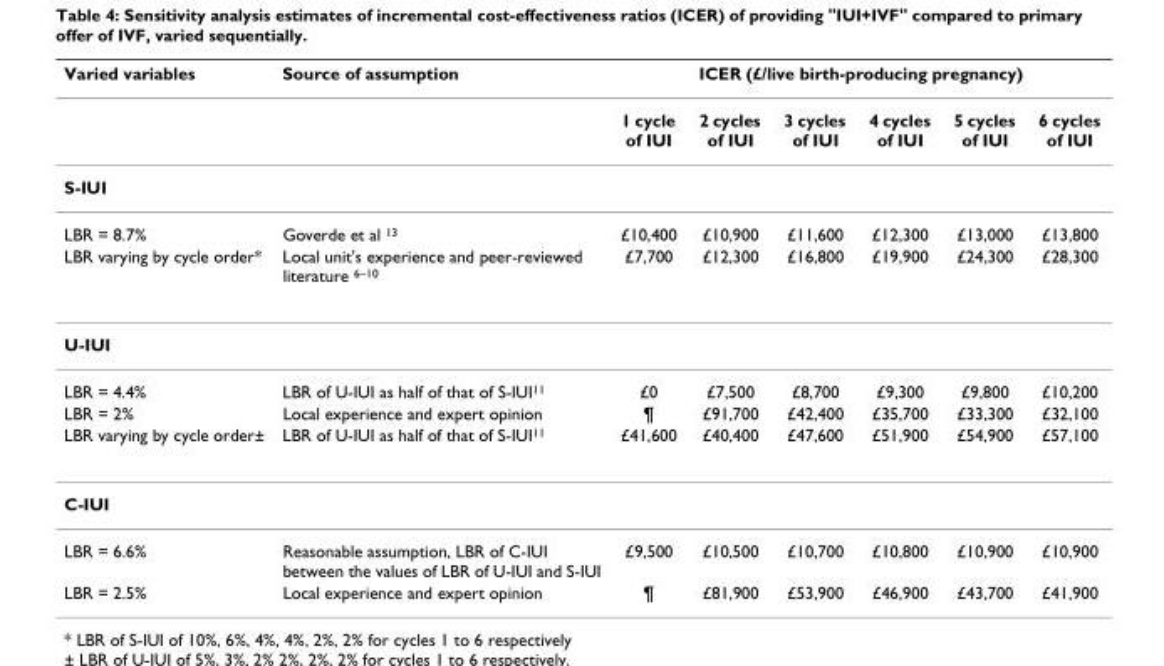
<table><thead><tr><td rowspan="2">Varied variables</td><td rowspan="2">Source of assumption</td><td colspan="6">ICER (£/live birth-producing pregnancy)</td></tr><tr><td>1 cycle of IUI</td><td>2 cycles of IUI</td><td>3 cycles of IUI</td><td>4 cycles of IUI</td><td>5 cycles of IUI</td><td>6 cycles of IUI</td></tr></thead><tbody><tr><td colspan="8">S-IUI</td></tr><tr><td>LBR = 8.7%</td><td>Goverde et al 13</td><td>£10,400</td><td>£10,900</td><td>£11,600</td><td>£12,300</td><td>£13,000</td><td>£13,800</td></tr><tr><td>LBR varying by cycle order*</td><td>Local unit&#x27;s experience and peer-reviewed literature 6–10</td><td>£7,700</td><td>£12,300</td><td>£16,800</td><td>£19,900</td><td>£24,300</td><td>£28,300</td></tr><tr><td colspan="8">U-IUI</td></tr><tr><td>LBR = 4.4%</td><td>LBR of U-IUI as half of that of S-IUI11</td><td>£0</td><td>£7,500</td><td>£8,700</td><td>£9,300</td><td>£9,800</td><td>£10,200</td></tr><tr><td>LBR = 2%</td><td>Local experience and expert opinion</td><td>¶</td><td>£91,700</td><td>£42,400</td><td>£35,700</td><td>£33,300</td><td>£32,100</td></tr><tr><td>LBR varying by cycle order±</td><td>LBR of U-IUI as half of that of S-IUI11</td><td>£41,600</td><td>£40,400</td><td>£47,600</td><td>£51,900</td><td>£54,900</td><td>£57,100</td></tr><tr><td colspan="8">C-IUI</td></tr><tr><td>LBR = 6.6%</td><td>Reasonable assumption, LBR of C-IUI between the values of LBR of U-IUI and S-IUI</td><td>£9,500</td><td>£10,500</td><td>£10,700</td><td>£10,800</td><td>£10,900</td><td>£10,900</td></tr><tr><td>LBR = 2.5%</td><td>Local experience and expert opinion</td><td>¶</td><td>£81,900</td><td>£53,900</td><td>£46,900</td><td>£43,700</td><td>£41,900</td></tr></tbody></table>